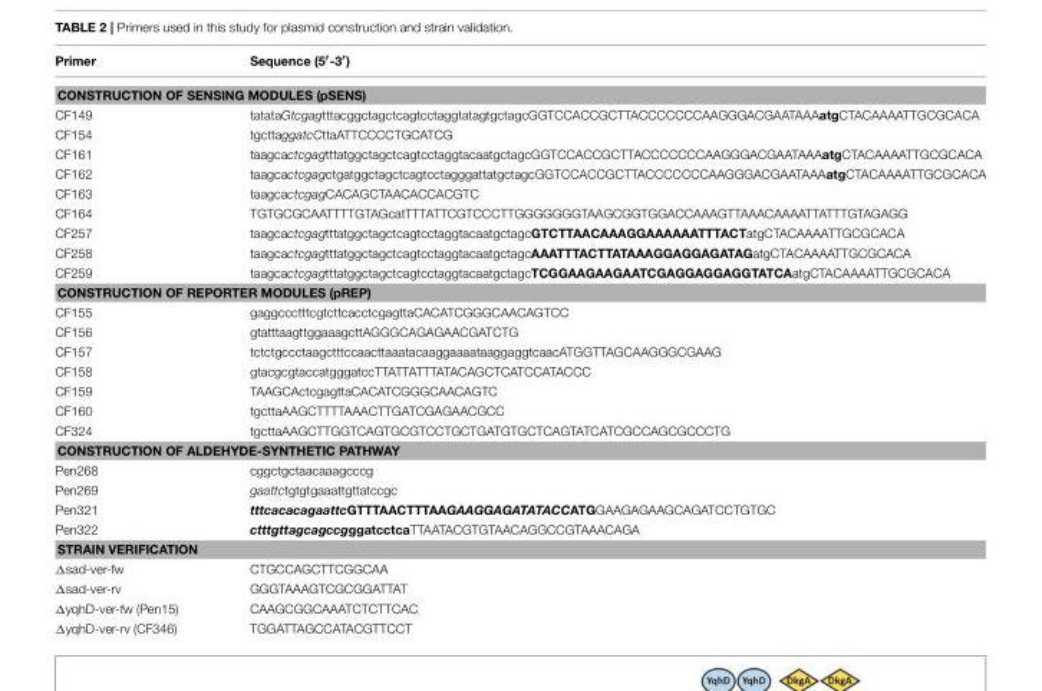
<table><thead><tr><td>Primer</td><td>Sequence (5′-3′)</td></tr></thead><tbody><tr><td colspan="2">CONSTRUCTION OF SENSING MODULES (pSENS)</td></tr><tr><td>CF149</td><td>tatataGtcgagtttacggctagctcagtcctaggtatagtgctagcGGTCCACCGCTTACCCCCCCAAGGGACGAATAAAatgCTACAAAATTGCGCACA</td></tr><tr><td>CF154</td><td>tgcttaggatcCttaATTCCCCTGCATCG</td></tr><tr><td>CF161</td><td>taagcactcgagtttatggctagctcagtcctaggtacaatgctagcGGTCCACCGCTTACCCCCCCAAGGGACGAATAAAatgCTACAAAATTGCGCACA</td></tr><tr><td>CF162</td><td>taagcactcgagctgatggctagctcagtcctagggattatgctagcGGTCCACCGCTTACCCCCCCAAGGGACGAATAAAatgCTACAAAATTGCGCACA</td></tr><tr><td>CF163</td><td>taagcactcgagCACAGCTAACACCACGTC</td></tr><tr><td>CF164</td><td>TGTGCGCAATTTTGTAGcatTTTATTCGTCCCTTGGGGGGGTAAGCGGTGGACCAAAGTTAAACAAAATTATTTGTAGAGG</td></tr><tr><td>CF257</td><td>taagcactcgagtttatggctagctcagtcctaggtacaatgctagcGTCTTAACAAAGGAAAAAATTTACTatgCTACAAAATTGCGCACA</td></tr><tr><td>CF258</td><td>taagcactcgagtttatggctagctcagtcctaggtacaatgctagcAAATTTACTTATAAAGGAGGAGATAGatgCTACAAAATTGCGCACA</td></tr><tr><td>CF259</td><td>taagcactcgagtttatggctagctcagtcctaggtacaatgctagcTCGGAAGAAGAATCGAGGAGGAGGTATCAatgCTACAAAATTGCGCACA</td></tr><tr><td colspan="2">CONSTRUCTION OF REPORTER MODULES (pREP)</td></tr><tr><td>CF155</td><td>gaggccctttcgtcttcacctcgagttaCACATCGGGCAACAGTCC</td></tr><tr><td>CF156</td><td>gtatttaagttggaaagcttAGGGCAGAGAACGATCTG</td></tr><tr><td>CF157</td><td>tctctgccctaagctttccaacttaaatacaaggaaaataaggaggtcaacATGGTTAGCAAGGGCGAAG</td></tr><tr><td>CF158</td><td>gtacgcgtaccatgggatccTTATTATTTATACAGCTCATCCATACCC</td></tr><tr><td>CF159</td><td>TAAGCActcgagttaCACATCGGGCAACAGTC</td></tr><tr><td>CF160</td><td>tgcttaAAGCTTTTAAACTTGATCGAGAACGCC</td></tr><tr><td>CF324</td><td>tgcttaAAGCTTGGTCAGTGCGTCCTGCTGATGTGCTCAGTATCATCGCCAGCGCCCTG</td></tr><tr><td colspan="2">CONSTRUCTION OF ALDEHYDE-SYNTHETIC PATHWAY</td></tr><tr><td>Pen268</td><td>cggctgctaacaaagcccg</td></tr><tr><td>Pen269</td><td>gaattctgtgtgaaattgttatccgc</td></tr><tr><td>Pen321</td><td>tttcacacagaattcGTTTAACTTTAAGAAGGAGATATACCATGGAAGAGAAGCAGATCCTGTGC</td></tr><tr><td>Pen322</td><td>ctttgttagcagccgggatcctcaTTAATACGTGTAACAGGCCGTAAACAGA</td></tr><tr><td colspan="2">STRAIN VERIFICATION</td></tr><tr><td>Δsad-ver-fw</td><td>CTGCCAGCTTCGGCAA</td></tr><tr><td>Δsad-ver-rv</td><td>GGGTAAAGTCGCGGATTAT</td></tr><tr><td>ΔyqhD-ver-fw (Pen15)</td><td>CAAGCGGCAAATCTCTTCAC</td></tr><tr><td>ΔyqhD-ver-rv (CF346)</td><td>TGGATTAGCCATACGTTCCT</td></tr></tbody></table>